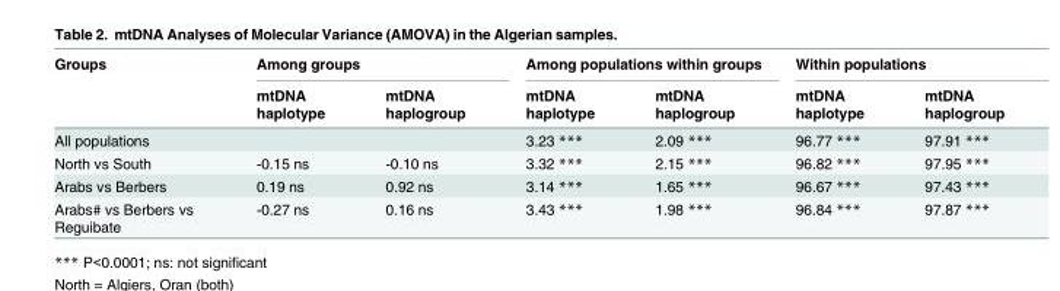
<table><thead><tr><td rowspan="2">Groups</td><td colspan="2">Among groups</td><td colspan="2">Among populations within groups</td><td colspan="2">Within populations</td></tr><tr><td>mtDNA haplotype</td><td>mtDNA haplogroup</td><td>mtDNA haplotype</td><td>mtDNA haplogroup</td><td>mtDNA haplotype</td><td>mtDNA haplogroup</td></tr></thead><tbody><tr><td>All populations</td><td></td><td></td><td>3.23 ***</td><td>2.09 ***</td><td>96.77 ***</td><td>97.91 ***</td></tr><tr><td>North vs South</td><td>-0.15 ns</td><td>-0.10 ns</td><td>3.32 ***</td><td>2.15 ***</td><td>96.82 ***</td><td>97.95 ***</td></tr><tr><td>Arabs vs Berbers</td><td>0.19 ns</td><td>0.92 ns</td><td>3.14 ***</td><td>1.65 ***</td><td>96.67 ***</td><td>97.43 ***</td></tr><tr><td>Arabs# vs Berbers vs Reguibate</td><td>-0.27 ns</td><td>0.16 ns</td><td>3.43 ***</td><td>1.98 ***</td><td>96.84 ***</td><td>97.87 ***</td></tr></tbody></table>